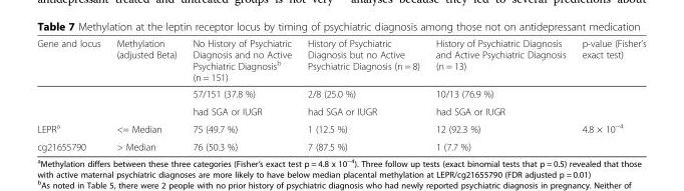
<table><thead><tr><td>Gene and locus</td><td>Methylation (adjusted Beta)</td><td>No History of Psychiatric Diagnosis and no Active Psychiatric Diagnosis<sup>b</sup> (n = 151)</td><td>History of Psychiatric Diagnosis but no Active Psychiatric Diagnosis (n = 8)</td><td>History of Psychiatric Diagnosis and Active Psychiatric Diagnosis (n = 13)</td><td>p-value (Fisher’s exact test)</td></tr></thead><tbody><tr><td rowspan="2"></td><td rowspan="2"></td><td>57/151 (37.8 %)</td><td>2/8 (25.0 %)</td><td>10/13 (76.9 %)</td><td rowspan="2"></td></tr><tr><td>had SGA or IUGR</td><td>had SGA or IUGR</td><td>had SGA or IUGR</td></tr><tr><td>LEPR<sup>a</sup></td><td>&lt;= Median</td><td>75 (49.7 %)</td><td>1 (12.5 %)</td><td>12 (92.3 %)</td><td rowspan="2">4.8 × 10<sup>−4</sup></td></tr><tr><td>cg21655790</td><td>&gt; Median</td><td>76 (50.3 %)</td><td>7 (87.5 %)</td><td>1 (7.7 %)</td></tr></tbody></table>